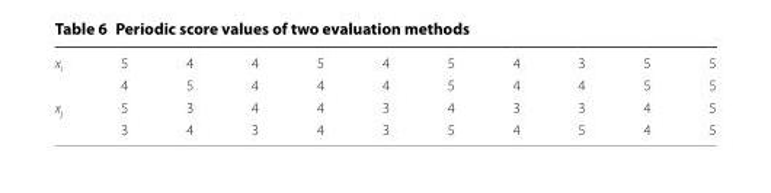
<table><tbody><tr><td rowspan="2">x<sub>i</sub></td><td>5</td><td>4</td><td>4</td><td>5</td><td>4</td><td>5</td><td>4</td><td>3</td><td>5</td><td>5</td></tr><tr><td>4</td><td>5</td><td>4</td><td>4</td><td>4</td><td>5</td><td>4</td><td>4</td><td>5</td><td>5</td></tr><tr><td rowspan="2">x<sub>j</sub></td><td>5</td><td>3</td><td>4</td><td>4</td><td>3</td><td>4</td><td>3</td><td>3</td><td>4</td><td>5</td></tr><tr><td>3</td><td>4</td><td>3</td><td>4</td><td>3</td><td>5</td><td>4</td><td>5</td><td>4</td><td>5</td></tr></tbody></table>